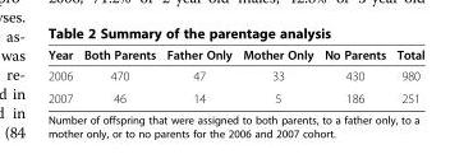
<table><thead><tr><td>Year</td><td>Both Parents</td><td>Father Only</td><td>Mother Only</td><td>No Parents</td><td>Total</td></tr></thead><tbody><tr><td>2006</td><td>470</td><td>47</td><td>33</td><td>430</td><td>980</td></tr><tr><td>2007</td><td>46</td><td>14</td><td>5</td><td>186</td><td>251</td></tr></tbody></table>